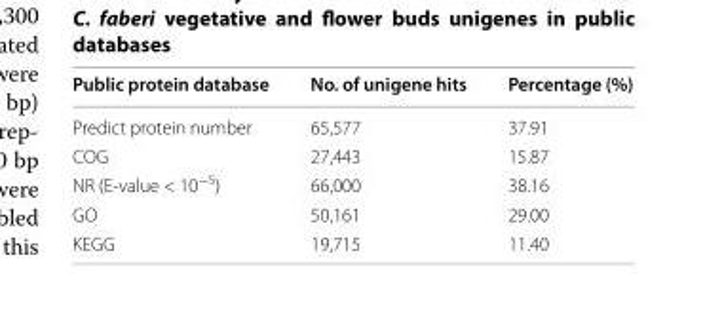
<table><thead><tr><td>Public protein database</td><td>No. of unigene hits</td><td>Percentage (%)</td></tr></thead><tbody><tr><td>Predict protein number</td><td>65,577</td><td>37.91</td></tr><tr><td>COG</td><td>27,443</td><td>15.87</td></tr><tr><td>NR (E-value &lt; 10<sup>−5</sup>)</td><td>66,000</td><td>38.16</td></tr><tr><td>GO</td><td>50,161</td><td>29.00</td></tr><tr><td>KEGG</td><td>19,715</td><td>11.40</td></tr></tbody></table>